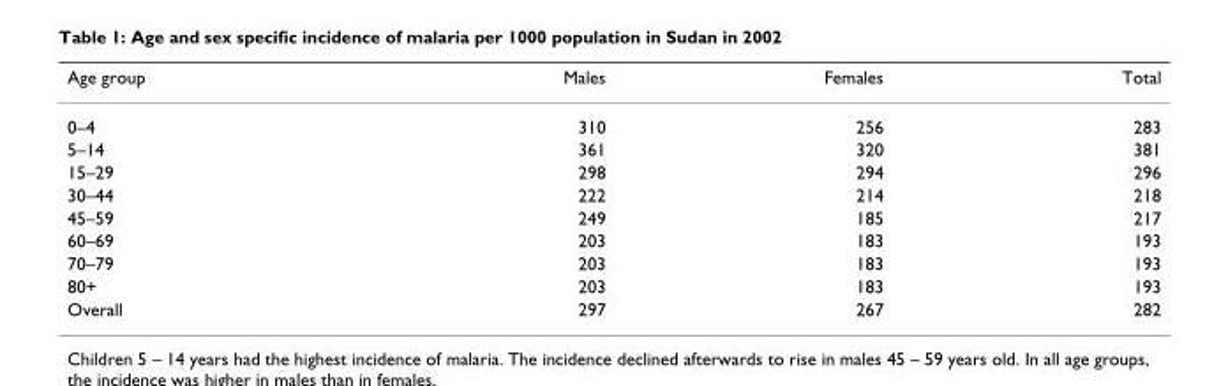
<table><thead><tr><td>Age group</td><td>Males</td><td>Females</td><td>Total</td></tr></thead><tbody><tr><td>0–4</td><td>310</td><td>256</td><td>283</td></tr><tr><td>5–14</td><td>361</td><td>320</td><td>381</td></tr><tr><td>15–29</td><td>298</td><td>294</td><td>296</td></tr><tr><td>30–44</td><td>222</td><td>214</td><td>218</td></tr><tr><td>45–59</td><td>249</td><td>185</td><td>217</td></tr><tr><td>60–69</td><td>203</td><td>183</td><td>193</td></tr><tr><td>70–79</td><td>203</td><td>183</td><td>193</td></tr><tr><td>80+</td><td>203</td><td>183</td><td>193</td></tr><tr><td>Overall</td><td>297</td><td>267</td><td>282</td></tr></tbody></table>